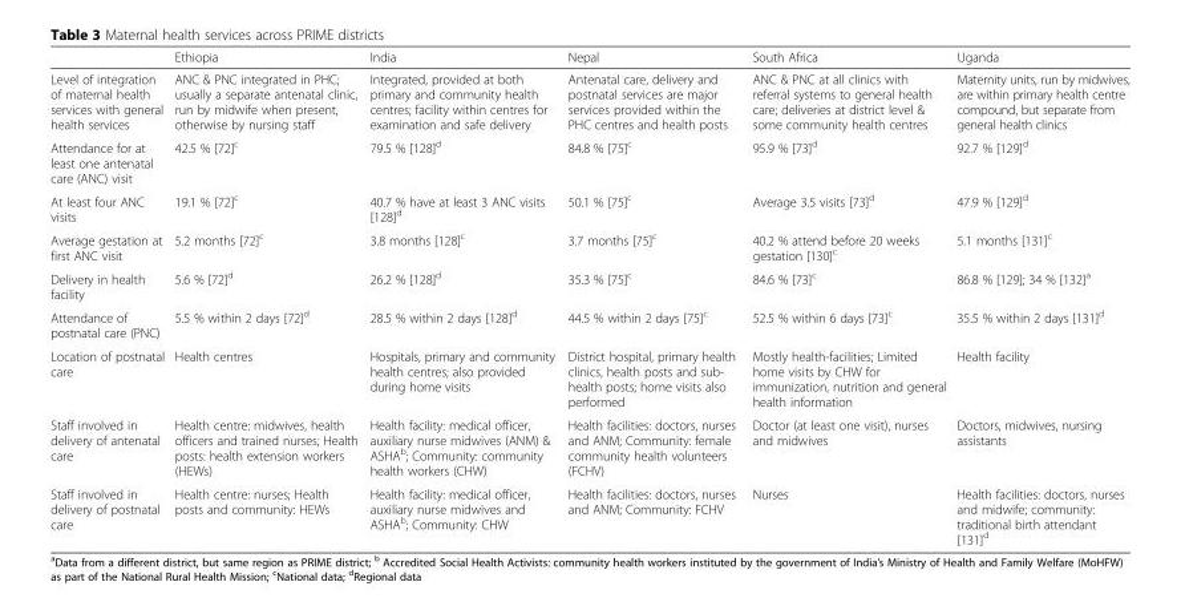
<table><thead><tr><td></td><td>Ethiopia</td><td>India</td><td>Nepal</td><td>South Africa</td><td>Uganda</td></tr></thead><tbody><tr><td>Level of integration of maternal health services with general health services</td><td>ANC &amp; PNC integrated in PHC; usually a separate antenatal clinic, run by midwife when present, otherwise by nursing staff</td><td>Integrated, provided at both primary and community health centres; facility within centres for examination and safe delivery</td><td>Antenatal care, delivery and postnatal services are major services provided within the PHC centres and health posts</td><td>ANC &amp; PNC at all clinics with referral systems to general health care; deliveries at district level &amp; some community health centres</td><td>Maternity units, run by midwives, are within primary health centre compound, but separate from general health clinics</td></tr><tr><td>Attendance for at least one antenatal care (ANC) visit</td><td>42.5 % [72]<sup>c</sup></td><td>79.5 % [128]<sup>d</sup></td><td>84.8 % [75]<sup>c</sup></td><td>95.9 % [73]<sup>d</sup></td><td>92.7 % [129]<sup>d</sup></td></tr><tr><td>At least four ANC visits</td><td>19.1 % [72]<sup>c</sup></td><td>40.7 % have at least 3 ANC visits [128]<sup>d</sup></td><td>50.1 % [75]<sup>c</sup></td><td>Average 3.5 visits [73]<sup>d</sup></td><td>47.9 % [129]<sup>d</sup></td></tr><tr><td>Average gestation at first ANC visit</td><td>5.2 months [72]<sup>c</sup></td><td>3.8 months [128]<sup>c</sup></td><td>3.7 months [75]<sup>c</sup></td><td>40.2 % attend before 20 weeks gestation [130]<sup>c</sup></td><td>5.1 months [131]<sup>c</sup></td></tr><tr><td>Delivery in health facility</td><td>5.6 % [72]<sup>d</sup></td><td>26.2 % [128]<sup>d</sup></td><td>35.3 % [75]<sup>c</sup></td><td>84.6 % [73]<sup>c</sup></td><td>86.8 % [129]; 34 % [132]<sup>a</sup></td></tr><tr><td>Attendance of postnatal care (PNC)</td><td>5.5 % within 2 days [72]<sup>d</sup></td><td>28.5 % within 2 days [128]<sup>d</sup></td><td>44.5 % within 2 days [75]<sup>c</sup></td><td>52.5 % within 6 days [73]<sup>c</sup></td><td>35.5 % within 2 days [131]<sup>d</sup></td></tr><tr><td>Location of postnatal care</td><td>Health centres</td><td>Hospitals, primary and community health centres; also provided during home visits</td><td>District hospital, primary health clinics, health posts and sub- health posts; home visits also performed</td><td>Mostly health-facilities; Limited home visits by CHW for immunization, nutrition and general health information</td><td>Health facility</td></tr><tr><td>Staff involved in delivery of antenatal care</td><td>Health centre: midwives, health officers and trained nurses; Health posts: health extension workers (HEWs)</td><td>Health facility: medical officer, auxiliary nurse midwives (ANM) &amp; ASHA<sup>b</sup>; Community: community health workers (CHW)</td><td>Health facilities: doctors, nurses and ANM; Community: female community health volunteers (FCHV)</td><td>Doctor (at least one visit), nurses and midwives</td><td>Doctors, midwives, nursing assistants</td></tr><tr><td>Staff involved in delivery of postnatal care</td><td>Health centre: nurses; Health posts and community: HEWs</td><td>Health facility: medical officer, auxiliary nurse midwives and ASHA<sup>b</sup>; Community: CHW</td><td>Health facilities: doctors, nurses and ANM; Community: FCHV</td><td>Nurses</td><td>Health facilities: doctors, nurses and midwife; community: traditional birth attendant [131]<sup>d</sup></td></tr></tbody></table>